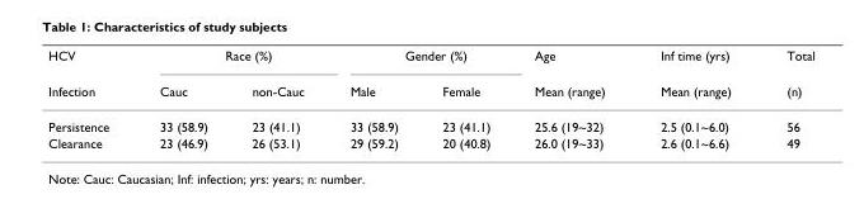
<table><thead><tr><td rowspan="2">HCV Infection</td><td colspan="2">Race (%)</td><td colspan="2">Gender (%)</td><td rowspan="2">Age Mean (range)</td><td rowspan="2">Inf time (yrs) Mean (range)</td><td rowspan="2">Total (n)</td></tr><tr><td>Cauc</td><td>non-Cauc</td><td>Male</td><td>Female</td></tr></thead><tbody><tr><td>Persistence</td><td>33 (58.9)</td><td>23 (41.1)</td><td>33 (58.9)</td><td>23 (41.1)</td><td>25.6 (19~32)</td><td>2.5 (0.1~6.0)</td><td>56</td></tr><tr><td>Clearance</td><td>23 (46.9)</td><td>26 (53.1)</td><td>29 (59.2)</td><td>20 (40.8)</td><td>26.0 (19~33)</td><td>2.6 (0.1~6.6)</td><td>49</td></tr></tbody></table>